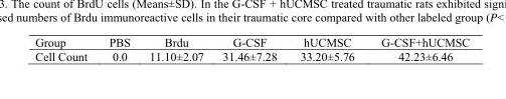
<table><thead><tr><td>Group</td><td>PBS</td><td>Brdu</td><td>G-CSF</td><td>hUCMSC</td><td>G-CSF+hUCMSC</td></tr></thead><tbody><tr><td>Cell Count</td><td>0.0</td><td>11.10±2.07</td><td>31.46±7.28</td><td>33.20±5.76</td><td>42.23±6.46</td></tr></tbody></table>